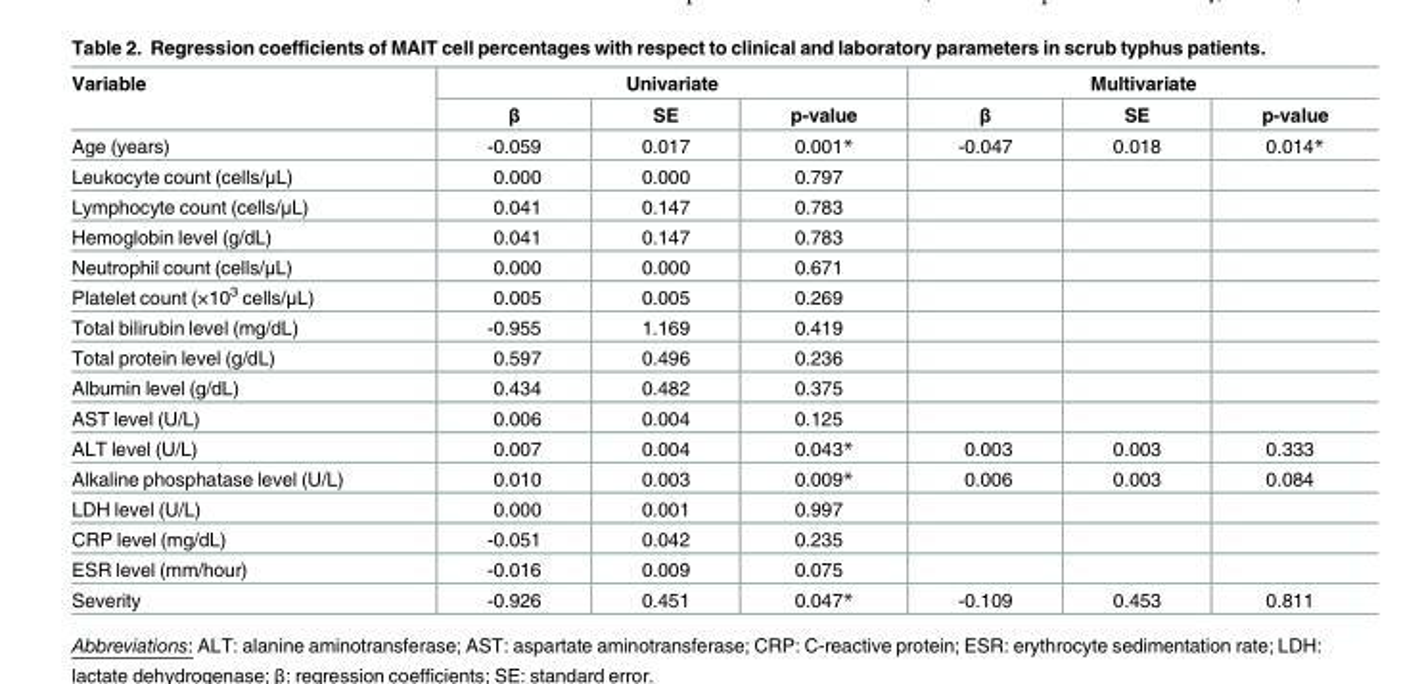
<table><thead><tr><td rowspan="2">Variable</td><td colspan="3">Univariate</td><td colspan="3">Multivariate</td></tr><tr><td>β</td><td>SE</td><td>p-value</td><td>β</td><td>SE</td><td>p-value</td></tr></thead><tbody><tr><td>Age (years)</td><td>-0.059</td><td>0.017</td><td>0.001*</td><td>-0.047</td><td>0.018</td><td>0.014*</td></tr><tr><td>Leukocyte count (cells/μL)</td><td>0.000</td><td>0.000</td><td>0.797</td><td></td><td></td><td></td></tr><tr><td>Lymphocyte count (cells/μL)</td><td>0.041</td><td>0.147</td><td>0.783</td><td></td><td></td><td></td></tr><tr><td>Hemoglobin level (g/dL)</td><td>0.041</td><td>0.147</td><td>0.783</td><td></td><td></td><td></td></tr><tr><td>Neutrophil count (cells/μL)</td><td>0.000</td><td>0.000</td><td>0.671</td><td></td><td></td><td></td></tr><tr><td>Platelet count (×10<sup>3</sup> cells/μL)</td><td>0.005</td><td>0.005</td><td>0.269</td><td></td><td></td><td></td></tr><tr><td>Total bilirubin level (mg/dL)</td><td>-0.955</td><td>1.169</td><td>0.419</td><td></td><td></td><td></td></tr><tr><td>Total protein level (g/dL)</td><td>0.597</td><td>0.496</td><td>0.236</td><td></td><td></td><td></td></tr><tr><td>Albumin level (g/dL)</td><td>0.434</td><td>0.482</td><td>0.375</td><td></td><td></td><td></td></tr><tr><td>AST level (U/L)</td><td>0.006</td><td>0.004</td><td>0.125</td><td></td><td></td><td></td></tr><tr><td>ALT level (U/L)</td><td>0.007</td><td>0.004</td><td>0.043*</td><td>0.003</td><td>0.003</td><td>0.333</td></tr><tr><td>Alkaline phosphatase level (U/L)</td><td>0.010</td><td>0.003</td><td>0.009*</td><td>0.006</td><td>0.003</td><td>0.084</td></tr><tr><td>LDH level (U/L)</td><td>0.000</td><td>0.001</td><td>0.997</td><td></td><td></td><td></td></tr><tr><td>CRP level (mg/dL)</td><td>-0.051</td><td>0.042</td><td>0.235</td><td></td><td></td><td></td></tr><tr><td>ESR level (mm/hour)</td><td>-0.016</td><td>0.009</td><td>0.075</td><td></td><td></td><td></td></tr><tr><td>Severity</td><td>-0.926</td><td>0.451</td><td>0.047*</td><td>-0.109</td><td>0.453</td><td>0.811</td></tr></tbody></table>